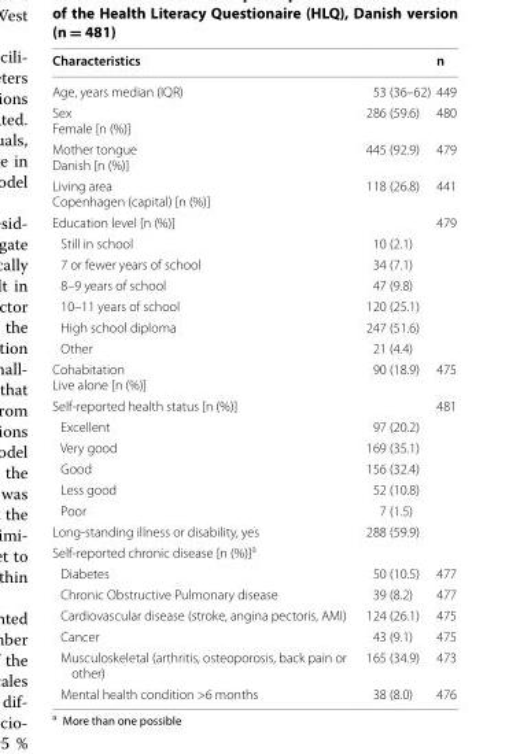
<table><thead><tr><td colspan="2">Characteristics</td><td rowspan="2">n 449</td></tr><tr><td>Age, years median (IQR)</td><td>53 (36–62)</td></tr></thead><tbody><tr><td>Sex Female [n (%)]</td><td>286 (59.6)</td><td>480</td></tr><tr><td>Mother tongue Danish [n (%)]</td><td>445 (92.9)</td><td>479</td></tr><tr><td>Living area Copenhagen (capital) [n (%)]</td><td>118 (26.8)</td><td>441</td></tr><tr><td>Education level [n (%)]</td><td></td><td>479</td></tr><tr><td>Still in school</td><td>10 (2.1)</td><td></td></tr><tr><td>7 or fewer years of school</td><td>34 (7.1)</td><td></td></tr><tr><td>8–9 years of school</td><td>47 (9.8)</td><td></td></tr><tr><td>10–11 years of school</td><td>120 (25.1)</td><td></td></tr><tr><td>High school diploma</td><td>247 (51.6)</td><td></td></tr><tr><td>Other</td><td>21 (4.4)</td><td></td></tr><tr><td>Cohabitation Live alone [n (%)]</td><td>90 (18.9)</td><td>475</td></tr><tr><td>Self-reported health status [n (%)]</td><td></td><td>481</td></tr><tr><td>Excellent</td><td>97 (20.2)</td><td></td></tr><tr><td>Very good</td><td>169 (35.1)</td><td></td></tr><tr><td>Good</td><td>156 (32.4)</td><td></td></tr><tr><td>Less good</td><td>52 (10.8)</td><td></td></tr><tr><td>Poor</td><td>7 (1.5)</td><td></td></tr><tr><td>Long-standing illness or disability, yes</td><td>288 (59.9)</td><td></td></tr><tr><td colspan="3">Self-reported chronic disease [n (%)]<sup>a</sup></td></tr><tr><td>Diabetes</td><td>50 (10.5)</td><td>477</td></tr><tr><td>Chronic Obstructive Pulmonary disease</td><td>39 (8.2)</td><td>477</td></tr><tr><td>Cardiovascular disease (stroke, angina pectoris, AMI)</td><td>124 (26.1)</td><td>475</td></tr><tr><td>Cancer</td><td>43 (9.1)</td><td>475</td></tr><tr><td>Musculoskeletal (arthritis, osteoporosis, back pain or other)</td><td>165 (34.9)</td><td>473</td></tr><tr><td>Mental health condition &gt;6 months</td><td>38 (8.0)</td><td>476</td></tr></tbody></table>